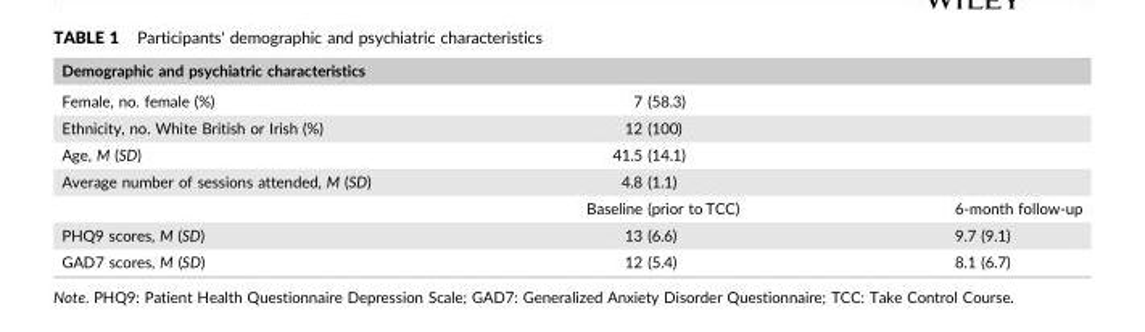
<table><thead><tr><td>Demographic and psychiatric characteristics</td><td></td><td></td></tr></thead><tbody><tr><td>Female, no. female (%)</td><td>7 (58.3)</td><td></td></tr><tr><td>Ethnicity, no. White British or Irish (%)</td><td>12 (100)</td><td></td></tr><tr><td>Age, M (SD)</td><td>41.5 (14.1)</td><td></td></tr><tr><td rowspan="2">Average number of sessions attended, M (SD)</td><td>4.8 (1.1)</td><td></td></tr><tr><td>Baseline (prior to TCC)</td><td>6‐month follow‐up</td></tr><tr><td>PHQ9 scores, M (SD)</td><td>13 (6.6)</td><td>9.7 (9.1)</td></tr><tr><td>GAD7 scores, M (SD)</td><td>12 (5.4)</td><td>8.1 (6.7)</td></tr></tbody></table>